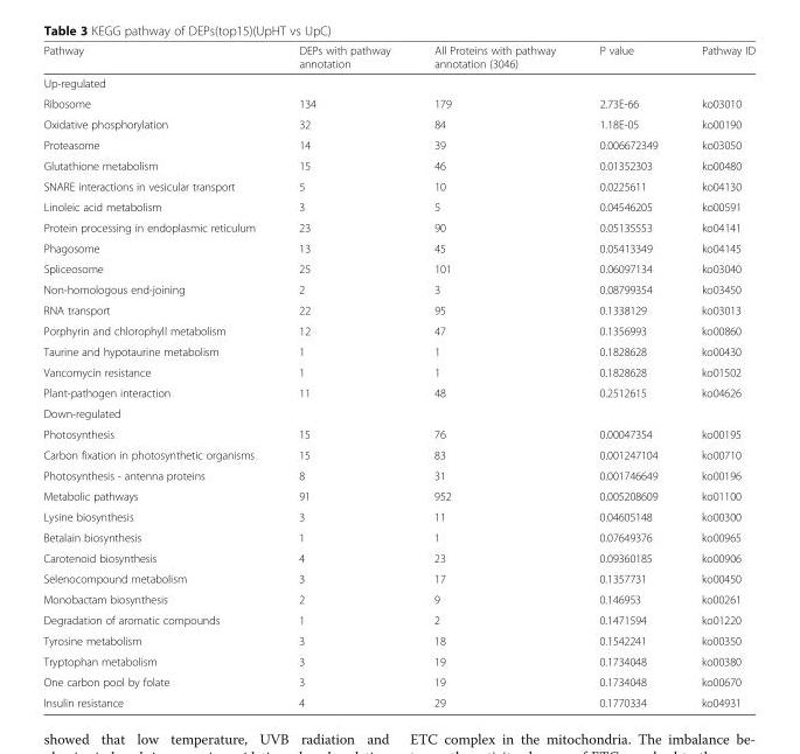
<table><thead><tr><td>Pathway</td><td>DEPs with pathway annotation</td><td>All Proteins with pathway annotation (3046)</td><td>P value</td><td>Pathway ID</td></tr></thead><tbody><tr><td colspan="5">Up-regulated</td></tr><tr><td>Ribosome</td><td>134</td><td>179</td><td>2.73E-66</td><td>ko03010</td></tr><tr><td>Oxidative phosphorylation</td><td>32</td><td>84</td><td>1.18E-05</td><td>ko00190</td></tr><tr><td>Proteasome</td><td>14</td><td>39</td><td>0.006672349</td><td>ko03050</td></tr><tr><td>Glutathione metabolism</td><td>15</td><td>46</td><td>0.01352303</td><td>ko00480</td></tr><tr><td>SNARE interactions in vesicular transport</td><td>5</td><td>10</td><td>0.0225611</td><td>ko04130</td></tr><tr><td>Linoleic acid metabolism</td><td>3</td><td>5</td><td>0.04546205</td><td>ko00591</td></tr><tr><td>Protein processing in endoplasmic reticulum</td><td>23</td><td>90</td><td>0.05135553</td><td>ko04141</td></tr><tr><td>Phagosome</td><td>13</td><td>45</td><td>0.05413349</td><td>ko04145</td></tr><tr><td>Spliceosome</td><td>25</td><td>101</td><td>0.06097134</td><td>ko03040</td></tr><tr><td>Non-homologous end-joining</td><td>2</td><td>3</td><td>0.08799354</td><td>ko03450</td></tr><tr><td>RNA transport</td><td>22</td><td>95</td><td>0.1338129</td><td>ko03013</td></tr><tr><td>Porphyrin and chlorophyll metabolism</td><td>12</td><td>47</td><td>0.1356993</td><td>ko00860</td></tr><tr><td>Taurine and hypotaurine metabolism</td><td>1</td><td>1</td><td>0.1828628</td><td>ko00430</td></tr><tr><td>Vancomycin resistance</td><td>1</td><td>1</td><td>0.1828628</td><td>ko01502</td></tr><tr><td>Plant-pathogen interaction</td><td>11</td><td>48</td><td>0.2512615</td><td>ko04626</td></tr><tr><td colspan="5">Down-regulated</td></tr><tr><td>Photosynthesis</td><td>15</td><td>76</td><td>0.00047354</td><td>ko00195</td></tr><tr><td>Carbon fixation in photosynthetic organisms</td><td>15</td><td>83</td><td>0.001247104</td><td>ko00710</td></tr><tr><td>Photosynthesis - antenna proteins</td><td>8</td><td>31</td><td>0.001746649</td><td>ko00196</td></tr><tr><td>Metabolic pathways</td><td>91</td><td>952</td><td>0.005208609</td><td>ko01100</td></tr><tr><td>Lysine biosynthesis</td><td>3</td><td>11</td><td>0.04605148</td><td>ko00300</td></tr><tr><td>Betalain biosynthesis</td><td>1</td><td>1</td><td>0.07649376</td><td>ko00965</td></tr><tr><td>Carotenoid biosynthesis</td><td>4</td><td>23</td><td>0.09360185</td><td>ko00906</td></tr><tr><td>Selenocompound metabolism</td><td>3</td><td>17</td><td>0.1357731</td><td>ko00450</td></tr><tr><td>Monobactam biosynthesis</td><td>2</td><td>9</td><td>0.146953</td><td>ko00261</td></tr><tr><td>Degradation of aromatic compounds</td><td>1</td><td>2</td><td>0.1471594</td><td>ko01220</td></tr><tr><td>Tyrosine metabolism</td><td>3</td><td>18</td><td>0.1542241</td><td>ko00350</td></tr><tr><td>Tryptophan metabolism</td><td>3</td><td>19</td><td>0.1734048</td><td>ko00380</td></tr><tr><td>One carbon pool by folate</td><td>3</td><td>19</td><td>0.1734048</td><td>ko00670</td></tr><tr><td>Insulin resistance</td><td>4</td><td>29</td><td>0.1770334</td><td>ko04931</td></tr></tbody></table>